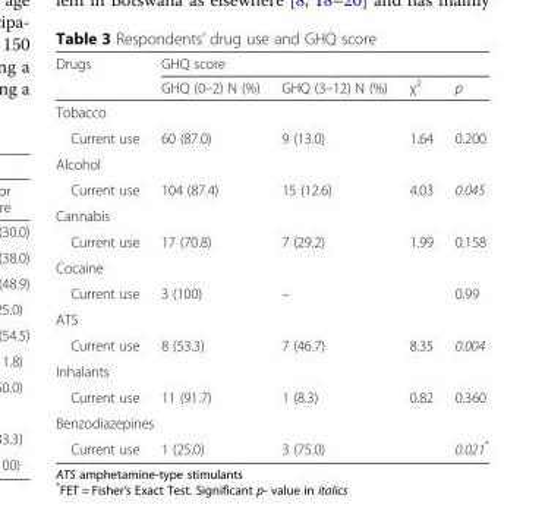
<table><thead><tr><td rowspan="2">Drugs</td><td colspan="4">GHQ score</td></tr><tr><td>GHQ (0–2) N (%)</td><td>GHQ (3–12) N (%)</td><td>χ<sup>2</sup></td><td>p</td></tr></thead><tbody><tr><td colspan="5">Tobacco</td></tr><tr><td>Current use</td><td>60 (87.0)</td><td>9 (13.0)</td><td>1.64</td><td>0.200</td></tr><tr><td colspan="5">Alcohol</td></tr><tr><td>Current use</td><td>104 (87.4)</td><td>15 (12.6)</td><td>4.03</td><td>0.045</td></tr><tr><td colspan="5">Cannabis</td></tr><tr><td>Current use</td><td>17 (70.8)</td><td>7 (29.2)</td><td>1.99</td><td>0.158</td></tr><tr><td colspan="5">Cocaine</td></tr><tr><td>Current use</td><td>3 (100)</td><td>–</td><td></td><td>0.99</td></tr><tr><td colspan="5">ATS</td></tr><tr><td>Current use</td><td>8 (53.3)</td><td>7 (46.7)</td><td>8.35</td><td>0.004</td></tr><tr><td colspan="5">Inhalants</td></tr><tr><td>Current use</td><td>11 (91.7)</td><td>1 (8.3)</td><td>0.82</td><td>0.360</td></tr><tr><td colspan="5">Benzodiazepines</td></tr><tr><td>Current use</td><td>1 (25.0)</td><td>3 (75.0)</td><td></td><td>0.021*</td></tr></tbody></table>